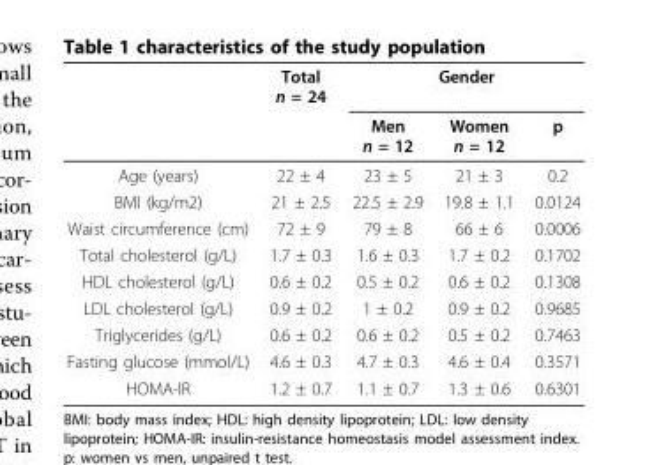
<table><thead><tr><td rowspan="2"></td><td rowspan="2">Total n = 24</td><td colspan="3">Gender</td></tr><tr><td>Men n = 12</td><td>Women n = 12</td><td>p</td></tr></thead><tbody><tr><td>Age (years)</td><td>22 ± 4</td><td>23 ± 5</td><td>21 ± 3</td><td>0.2</td></tr><tr><td>BMI (kg/m2)</td><td>21 ± 2.5</td><td>22.5 ± 2.9</td><td>19.8 ± 1.1</td><td>0.0124</td></tr><tr><td>Waist circumference (cm)</td><td>72 ± 9</td><td>79 ± 8</td><td>66 ± 6</td><td>0.0006</td></tr><tr><td>Total cholesterol (g/L)</td><td>1.7 ± 0.3</td><td>1.6 ± 0.3</td><td>1.7 ± 0.2</td><td>0.1702</td></tr><tr><td>HDL cholesterol (g/L)</td><td>0.6 ± 0.2</td><td>0.5 ± 0.2</td><td>0.6 ± 0.2</td><td>0.1308</td></tr><tr><td>LDL cholesterol (g/L)</td><td>0.9 ± 0.2</td><td>1 ± 0.2</td><td>0.9 ± 0.2</td><td>0.9685</td></tr><tr><td>Triglycerides (g/L)</td><td>0.6 ± 0.2</td><td>0.6 ± 0.2</td><td>0.5 ± 0.2</td><td>0.7463</td></tr><tr><td>Fasting glucose (mmol/L)</td><td>4.6 ± 0.3</td><td>4.7 ± 0.3</td><td>4.6 ± 0.4</td><td>0.3571</td></tr><tr><td>HOMA-IR</td><td>1.2 ± 0.7</td><td>1.1 ± 0.7</td><td>1.3 ± 0.6</td><td>0.6301</td></tr></tbody></table>